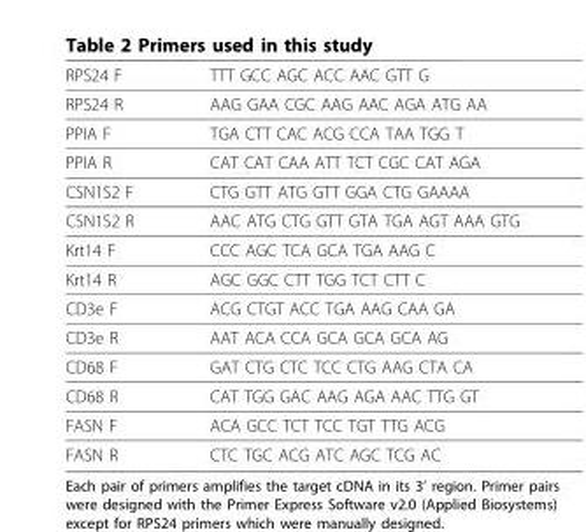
<table><thead><tr><td>RPS24 F</td><td>TTT GCC AGC ACC AAC GTT G</td></tr></thead><tbody><tr><td>RPS24 R</td><td>AAG GAA CGC AAG AAC AGA ATG AA</td></tr><tr><td>PPIA F</td><td>TGA CTT CAC ACG CCA TAA TGG T</td></tr><tr><td>PPIA R</td><td>CAT CAT CAA ATT TCT CGC CAT AGA</td></tr><tr><td>CSN1S2 F</td><td>CTG GTT ATG GTT GGA CTG GAAAA</td></tr><tr><td>CSN1S2 R</td><td>AAC ATG CTG GTT GTA TGA AGT AAA GTG</td></tr><tr><td>Krt14 F</td><td>CCC AGC TCA GCA TGA AAG C</td></tr><tr><td>Krt14 R</td><td>AGC GGC CTT TGG TCT CTT C</td></tr><tr><td>CD3e F</td><td>ACG CTGT ACC TGA AAG CAA GA</td></tr><tr><td>CD3e R</td><td>AAT ACA CCA GCA GCA GCA AG</td></tr><tr><td>CD68 F</td><td>GAT CTG CTC TCC CTG AAG CTA CA</td></tr><tr><td>CD68 R</td><td>CAT TGG GAC AAG AGA AAC TTG GT</td></tr><tr><td>FASN F</td><td>ACA GCC TCT TCC TGT TTG ACG</td></tr><tr><td>FASN R</td><td>CTC TGC ACG ATC AGC TCG AC</td></tr></tbody></table>